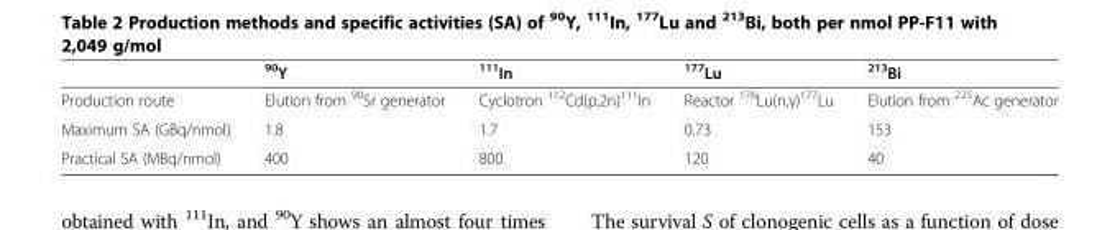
<table><thead><tr><td></td><td><sup>90</sup>Y</td><td><sup>111</sup>In</td><td><sup>177</sup>Lu</td><td><sup>213</sup>Bi</td></tr></thead><tbody><tr><td>Production route</td><td>Elution from <sup>90</sup>Sr generator</td><td>Cyclotron <sup>112</sup>Cd(p,2n)<sup>111</sup>In</td><td>Reactor <sup>176</sup>Lu(n,γ)<sup>177</sup>Lu</td><td>Elution from <sup>225</sup>Ac generator</td></tr><tr><td>Maximum SA (GBq/nmol)</td><td>1.8</td><td>1.7</td><td>0.73</td><td>153</td></tr><tr><td>Practical SA (MBq/nmol)</td><td>400</td><td>800</td><td>120</td><td>40</td></tr></tbody></table>